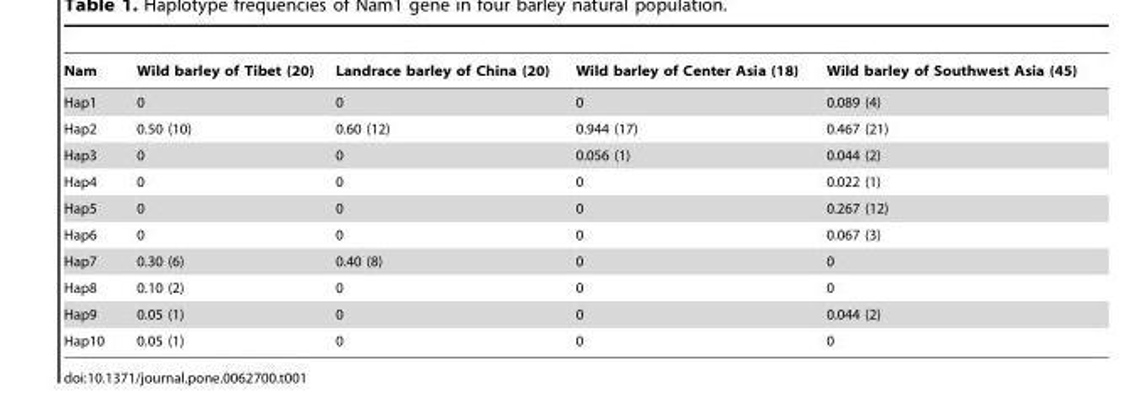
<table><thead><tr><td>Nam</td><td>Wild barley of Tibet (20)</td><td>Landrace barley of China (20)</td><td>Wild barley of Center Asia (18)</td><td>Wild barley of Southwest Asia (45)</td></tr></thead><tbody><tr><td>Hap1</td><td>0</td><td>0</td><td>0</td><td>0.089 (4)</td></tr><tr><td>Hap2</td><td>0.50 (10)</td><td>0.60 (12)</td><td>0.944 (17)</td><td>0.467 (21)</td></tr><tr><td>Hap3</td><td>0</td><td>0</td><td>0.056 (1)</td><td>0.044 (2)</td></tr><tr><td>Hap4</td><td>0</td><td>0</td><td>0</td><td>0.022 (1)</td></tr><tr><td>Hap5</td><td>0</td><td>0</td><td>0</td><td>0.267 (12)</td></tr><tr><td>Hap6</td><td>0</td><td>0</td><td>0</td><td>0.067 (3)</td></tr><tr><td>Hap7</td><td>0.30 (6)</td><td>0.40 (8)</td><td>0</td><td>0</td></tr><tr><td>Hap8</td><td>0.10 (2)</td><td>0</td><td>0</td><td>0</td></tr><tr><td>Hap9</td><td>0.05 (1)</td><td>0</td><td>0</td><td>0.044 (2)</td></tr><tr><td>Hap10</td><td>0.05 (1)</td><td>0</td><td>0</td><td>0</td></tr></tbody></table>